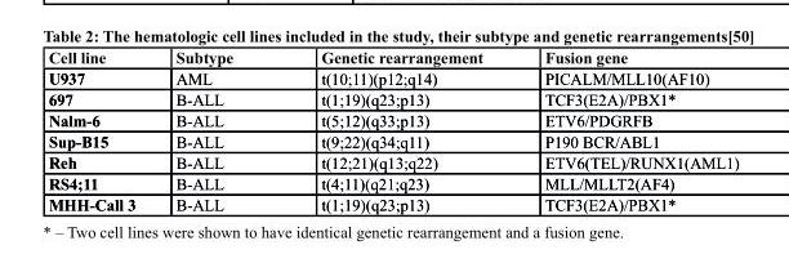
<table><thead><tr><td>cell line</td><td>Subtype</td><td>Genetic rearrangement</td><td>Fusion gene</td></tr></thead><tbody><tr><td>U937</td><td>AML</td><td>t(10;11)(p12;q14)</td><td>PICALM/MLL10(AF10)</td></tr><tr><td>697</td><td>B-ALL</td><td>t(1;19)(q23;p13)</td><td>TCF3(E2A)/PBX1*</td></tr><tr><td>Nalm-6</td><td>B-ALL</td><td>t(5;12)(q33;p13)</td><td>ETV6/PDGRFB</td></tr><tr><td>Sup-B15</td><td>B-ALL</td><td>t(9;22)(q34;q11)</td><td>P190 BCR/ABL1</td></tr><tr><td>Reh</td><td>B-ALL</td><td>t(12;21)(q13;q22)</td><td>ETV6(TEL)/RUNX1(AML1)</td></tr><tr><td>rs4;11</td><td>B-ALL</td><td>t(4;11)(q21;q23)</td><td>MLL/MLLT2(AF4)</td></tr><tr><td>MHH-Call 3</td><td>B-ALL</td><td>t(1;19)(q23;p13)</td><td>TCF3(E2A)/PBX1*</td></tr></tbody></table>